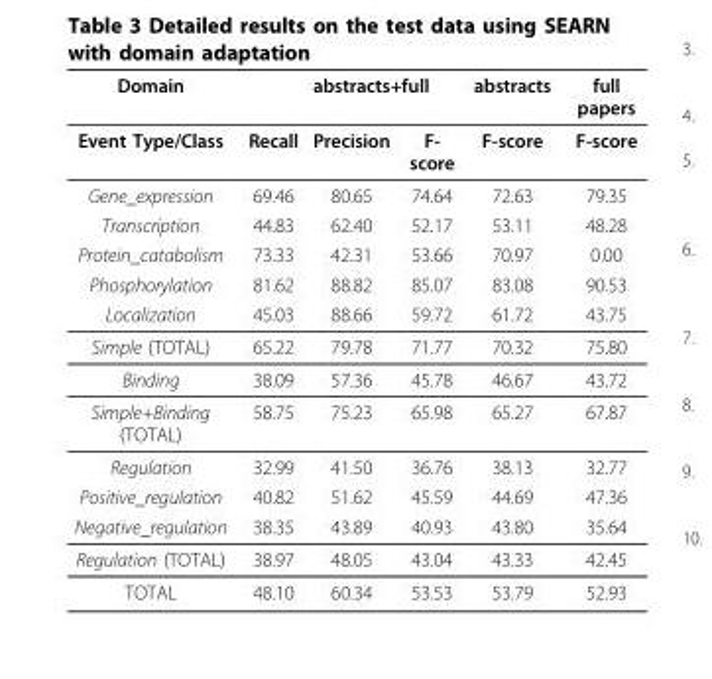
<table><thead><tr><td rowspan="2">Domain Event Type/Class</td><td rowspan="2">Recall</td><td colspan="2">abstracts+full</td><td rowspan="2">abstracts F-score</td><td rowspan="2">full papers F-score</td></tr><tr><td>Precision</td><td>F- score</td></tr></thead><tbody><tr><td>Gene_expression</td><td>69.46</td><td>80.65</td><td>74.64</td><td>72.63</td><td>79.35</td></tr><tr><td>Transcription</td><td>44.83</td><td>62.40</td><td>52.17</td><td>53.11</td><td>48.28</td></tr><tr><td>Protein_catabolism</td><td>73.33</td><td>42.31</td><td>53.66</td><td>70.97</td><td>0.00</td></tr><tr><td>Phosphorylation</td><td>81.62</td><td>88.82</td><td>85.07</td><td>83.08</td><td>90.53</td></tr><tr><td>Localization</td><td>45.03</td><td>88.66</td><td>59.72</td><td>61.72</td><td>43.75</td></tr><tr><td>Simple (TOTAL)</td><td>65.22</td><td>79.78</td><td>71.77</td><td>70.32</td><td>75.80</td></tr><tr><td>Binding</td><td>38.09</td><td>57.36</td><td>45.78</td><td>46.67</td><td>43.72</td></tr><tr><td>Simple+Binding (TOTAL)</td><td>58.75</td><td>75.23</td><td>65.98</td><td>65.27</td><td>67.87</td></tr><tr><td>Regulation</td><td>32.99</td><td>41.50</td><td>36.76</td><td>38.13</td><td>32.77</td></tr><tr><td>Positive_regulation</td><td>40.82</td><td>51.62</td><td>45.59</td><td>44.69</td><td>47.36</td></tr><tr><td>Negative_regulation</td><td>38.35</td><td>43.89</td><td>40.93</td><td>43.80</td><td>35.64</td></tr><tr><td>Regulation (TOTAL)</td><td>38.97</td><td>48.05</td><td>43.04</td><td>43.33</td><td>42.45</td></tr><tr><td>TOTAL</td><td>48.10</td><td>60.34</td><td>53.53</td><td>53.79</td><td>52.93</td></tr></tbody></table>